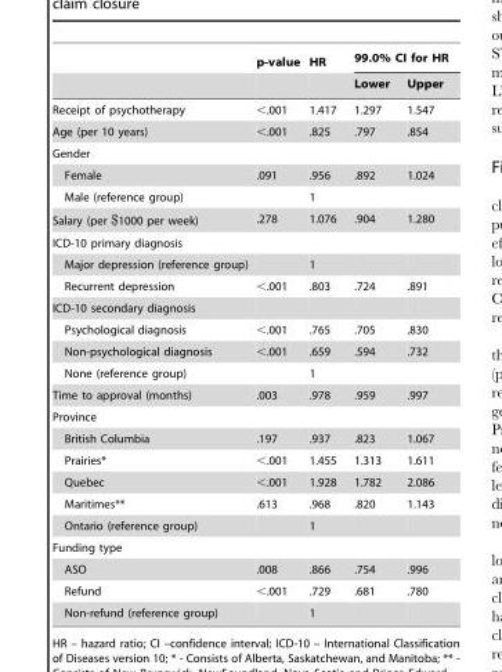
<table><thead><tr><td rowspan="2"></td><td rowspan="2">p-value</td><td rowspan="2">HR</td><td colspan="2">99.0% CI for HR</td></tr><tr><td>Lower</td><td>Upper</td></tr></thead><tbody><tr><td>Receipt of psychotherapy</td><td>&lt;.001</td><td>1.417</td><td>1.297</td><td>1.547</td></tr><tr><td>Age (per 10 years)</td><td>&lt;.001</td><td>.825</td><td>.797</td><td>.854</td></tr><tr><td colspan="5">Gender</td></tr><tr><td>Female</td><td>.091</td><td>.956</td><td>.892</td><td>1.024</td></tr><tr><td>Male (reference group)</td><td></td><td>1</td><td></td><td></td></tr><tr><td>Salary (per $1000 per week)</td><td>.278</td><td>1.076</td><td>.904</td><td>1.280</td></tr><tr><td colspan="5">ICD-10 primary diagnosis</td></tr><tr><td>Major depression (reference group)</td><td></td><td>1</td><td></td><td></td></tr><tr><td>Recurrent depression</td><td>&lt;.001</td><td>.803</td><td>.724</td><td>.891</td></tr><tr><td colspan="5">ICD-10 secondary diagnosis</td></tr><tr><td>Psychological diagnosis</td><td>&lt;.001</td><td>.765</td><td>.705</td><td>.830</td></tr><tr><td>Non-psychological diagnosis</td><td>&lt;.001</td><td>.659</td><td>.594</td><td>.732</td></tr><tr><td>None (reference group)</td><td></td><td>1</td><td></td><td></td></tr><tr><td>Time to approval (months)</td><td>.003</td><td>.978</td><td>.959</td><td>.997</td></tr><tr><td colspan="5">Province</td></tr><tr><td>British Columbia</td><td>.197</td><td>.937</td><td>.823</td><td>1.067</td></tr><tr><td>Prairies*</td><td>&lt;.001</td><td>1.455</td><td>1.313</td><td>1.611</td></tr><tr><td>Quebec</td><td>&lt;.001</td><td>1.928</td><td>1.782</td><td>2.086</td></tr><tr><td>Maritimes**</td><td>.613</td><td>.968</td><td>.820</td><td>1.143</td></tr><tr><td>Ontario (reference group)</td><td></td><td>1</td><td></td><td></td></tr><tr><td colspan="5">Funding type</td></tr><tr><td>ASO</td><td>.008</td><td>.866</td><td>.754</td><td>.996</td></tr><tr><td>Refund</td><td>&lt;.001</td><td>.729</td><td>.681</td><td>.780</td></tr><tr><td>Non-refund (reference group)</td><td></td><td>1</td><td></td><td></td></tr></tbody></table>